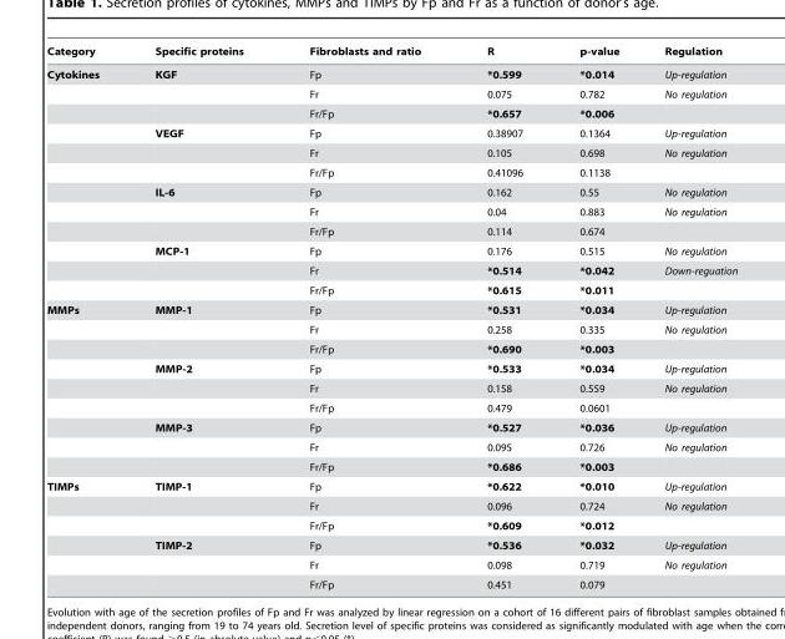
<table><thead><tr><td>Category</td><td>Specific proteins</td><td>Fibroblasts and ratio</td><td>R</td><td>p-value</td><td>Regulation</td></tr></thead><tbody><tr><td rowspan="12">Cytokines</td><td>KGF</td><td>Fp</td><td>*0.599</td><td>*0.014</td><td>Up-regulation</td></tr><tr><td></td><td>Fr</td><td>0.075</td><td>0.782</td><td>No regulation</td></tr><tr><td></td><td>Fr/Fp</td><td>*0.657</td><td>*0.006</td><td></td></tr><tr><td>VEGF</td><td>Fp</td><td>0.38907</td><td>0.1364</td><td>Up-regulation</td></tr><tr><td></td><td>Fr</td><td>0.105</td><td>0.698</td><td>No regulation</td></tr><tr><td></td><td>Fr/Fp</td><td>0.41096</td><td>0.1138</td><td></td></tr><tr><td>IL-6</td><td>Fp</td><td>0.162</td><td>0.55</td><td>No regulation</td></tr><tr><td></td><td>Fr</td><td>0.04</td><td>0.883</td><td>No regulation</td></tr><tr><td></td><td>Fr/Fp</td><td>0.114</td><td>0.674</td><td></td></tr><tr><td>MCP-1</td><td>Fp</td><td>0.176</td><td>0.515</td><td>No regulation</td></tr><tr><td></td><td>Fr</td><td>*0.514</td><td>*0.042</td><td>Down-reguation</td></tr><tr><td></td><td>Fr/Fp</td><td>*0.615</td><td>*0.011</td><td></td></tr><tr><td rowspan="9">MMPs</td><td>MMP-1</td><td>Fp</td><td>*0.531</td><td>*0.034</td><td>Up-regulation</td></tr><tr><td></td><td>Fr</td><td>0.258</td><td>0.335</td><td>No regulation</td></tr><tr><td></td><td>Fr/Fp</td><td>*0.690</td><td>*0.003</td><td></td></tr><tr><td>MMP-2</td><td>Fp</td><td>*0.533</td><td>*0.034</td><td>Up-regulation</td></tr><tr><td></td><td>Fr</td><td>0.158</td><td>0.559</td><td>No regulation</td></tr><tr><td></td><td>Fr/Fp</td><td>0.479</td><td>0.0601</td><td></td></tr><tr><td>MMP-3</td><td>Fp</td><td>*0.527</td><td>*0.036</td><td>Up-regulation</td></tr><tr><td></td><td>Fr</td><td>0.095</td><td>0.726</td><td>No regulation</td></tr><tr><td></td><td>Fr/Fp</td><td>*0.686</td><td>*0.003</td><td></td></tr><tr><td rowspan="6">TIMPs</td><td>TIMP-1</td><td>Fp</td><td>*0.622</td><td>*0.010</td><td>Up-regulation</td></tr><tr><td></td><td>Fr</td><td>0.096</td><td>0.724</td><td>No regulation</td></tr><tr><td></td><td>Fr/Fp</td><td>*0.609</td><td>*0.012</td><td></td></tr><tr><td>TIMP-2</td><td>Fp</td><td>*0.536</td><td>*0.032</td><td>Up-regulation</td></tr><tr><td></td><td>Fr</td><td>0.098</td><td>0.719</td><td>No regulation</td></tr><tr><td></td><td>Fr/Fp</td><td>0.451</td><td>0.079</td><td></td></tr></tbody></table>